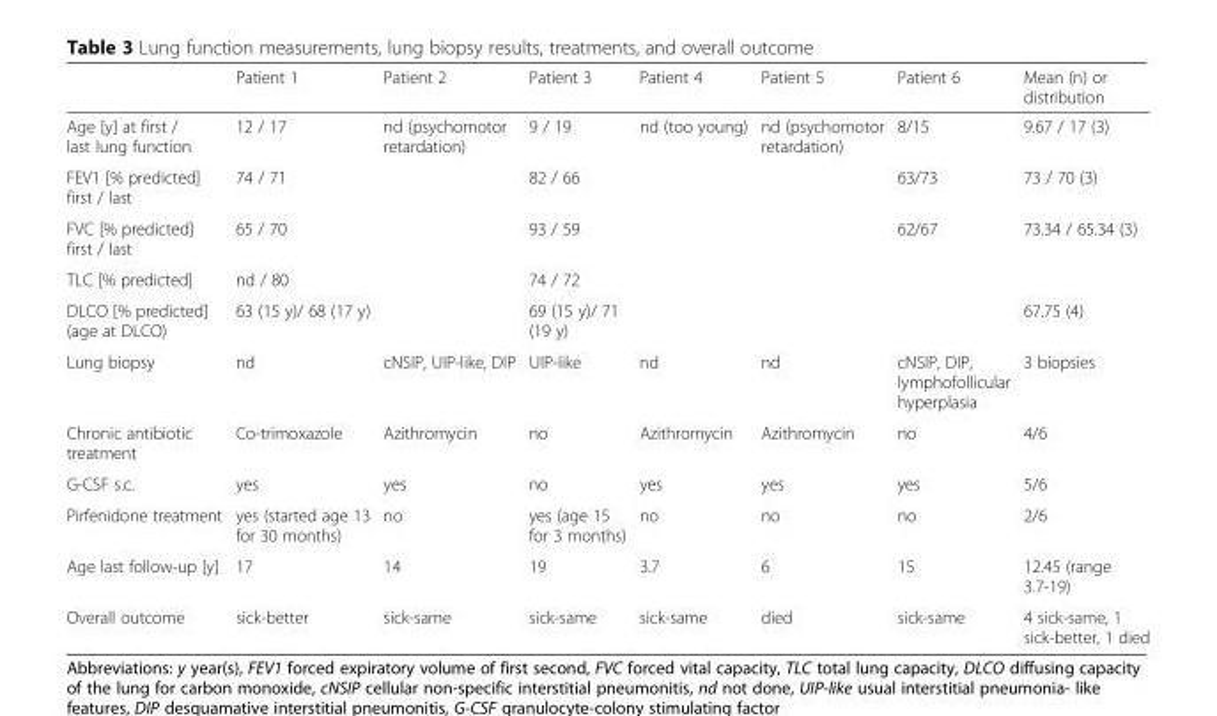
<table><thead><tr><td></td><td>Patient 1</td><td>Patient 2</td><td>Patient 3</td><td>Patient 4</td><td>Patient 5</td><td>Patient 6</td><td>Mean (n) or distribution</td></tr></thead><tbody><tr><td>Age [y] at first / last lung function</td><td>12 / 17</td><td>nd (psychomotor retardation)</td><td>9 / 19</td><td>nd (too young)</td><td>nd (psychomotor retardation)</td><td>8/15</td><td>9.67 / 17 (3)</td></tr><tr><td>FEV1 [% predicted] first / last</td><td>74 / 71</td><td></td><td>82 / 66</td><td></td><td></td><td>63/73</td><td>73 / 70 (3)</td></tr><tr><td>FVC [% predicted] first / last</td><td>65 / 70</td><td></td><td>93 / 59</td><td></td><td></td><td>62/67</td><td>73.34 / 65.34 (3)</td></tr><tr><td>TLC [% predicted]</td><td>nd / 80</td><td></td><td>74 / 72</td><td></td><td></td><td></td><td></td></tr><tr><td>DLCO [% predicted] (age at DLCO)</td><td>63 (15 y)/ 68 (17 y)</td><td></td><td>69 (15 y)/ 71 (19 y)</td><td></td><td></td><td></td><td>67.75 (4)</td></tr><tr><td>Lung biopsy</td><td>nd</td><td>cNSIP, UIP-like, DIP</td><td>UIP-like</td><td>nd</td><td>nd</td><td>cNSIP, DIP, lymphofollicular hyperplasia</td><td>3 biopsies</td></tr><tr><td>Chronic antibiotic treatment</td><td>Co-trimoxazole</td><td>Azithromycin</td><td>no</td><td>Azithromycin</td><td>Azithromycin</td><td>no</td><td>4/6</td></tr><tr><td>G-CSF s.c.</td><td>yes</td><td>yes</td><td>no</td><td>yes</td><td>yes</td><td>yes</td><td>5/6</td></tr><tr><td>Pirfenidone treatment</td><td>yes (started age 13 for 30 months)</td><td>no</td><td>yes (age 15 for 3 months)</td><td>no</td><td>no</td><td>no</td><td>2/6</td></tr><tr><td>Age last follow-up [y]</td><td>17</td><td>14</td><td>19</td><td>3.7</td><td>6</td><td>15</td><td>12.45 (range 3.7-19)</td></tr><tr><td>Overall outcome</td><td>sick-better</td><td>sick-same</td><td>sick-same</td><td>sick-same</td><td>died</td><td>sick-same</td><td>4 sick-same, 1 sick-better, 1 died</td></tr></tbody></table>